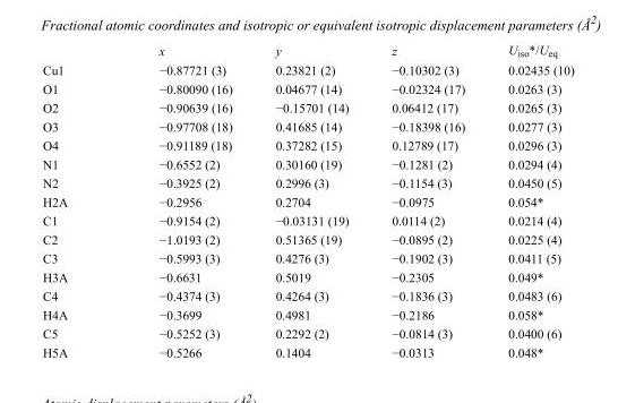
<table><thead><tr><td></td><td>x</td><td>y</td><td>z</td><td>U<sub>iso</sub>*/U<sub>eq</sub></td></tr></thead><tbody><tr><td>Cu1</td><td>−0.87721 (3)</td><td>0.23821 (2)</td><td>−0.10302 (3)</td><td>0.02435 (10)</td></tr><tr><td>O1</td><td>−0.80090 (16)</td><td>0.04677 (14)</td><td>−0.02324 (17)</td><td>0.0263 (3)</td></tr><tr><td>O2</td><td>−0.90639 (16)</td><td>−0.15701 (14)</td><td>0.06412 (17)</td><td>0.0265 (3)</td></tr><tr><td>O3</td><td>−0.97708 (18)</td><td>0.41685 (14)</td><td>−0.18398 (16)</td><td>0.0277 (3)</td></tr><tr><td>O4</td><td>−0.91189 (18)</td><td>0.37282 (15)</td><td>0.12789 (17)</td><td>0.0296 (3)</td></tr><tr><td>N1</td><td>−0.6552 (2)</td><td>0.30160 (19)</td><td>−0.1281 (2)</td><td>0.0294 (4)</td></tr><tr><td>N2</td><td>−0.3925 (2)</td><td>0.2996 (3)</td><td>−0.1154 (3)</td><td>0.0450 (5)</td></tr><tr><td>H2A</td><td>−0.2956</td><td>0.2704</td><td>−0.0975</td><td>0.054*</td></tr><tr><td>C1</td><td>−0.9154 (2)</td><td>−0.03131 (19)</td><td>0.0114 (2)</td><td>0.0214 (4)</td></tr><tr><td>C2</td><td>−1.0193 (2)</td><td>0.51365 (19)</td><td>−0.0895 (2)</td><td>0.0225 (4)</td></tr><tr><td>C3</td><td>−0.5993 (3)</td><td>0.4276 (3)</td><td>−0.1902 (3)</td><td>0.0411 (5)</td></tr><tr><td>H3A</td><td>−0.6631</td><td>0.5019</td><td>−0.2305</td><td>0.049*</td></tr><tr><td>C4</td><td>−0.4374 (3)</td><td>0.4264 (3)</td><td>−0.1836 (3)</td><td>0.0483 (6)</td></tr><tr><td>H4A</td><td>−0.3699</td><td>0.4981</td><td>−0.2186</td><td>0.058*</td></tr><tr><td>C5</td><td>−0.5252 (3)</td><td>0.2292 (2)</td><td>−0.0814 (3)</td><td>0.0400 (6)</td></tr><tr><td>H5A</td><td>−0.5266</td><td>0.1404</td><td>−0.0313</td><td>0.048*</td></tr></tbody></table>